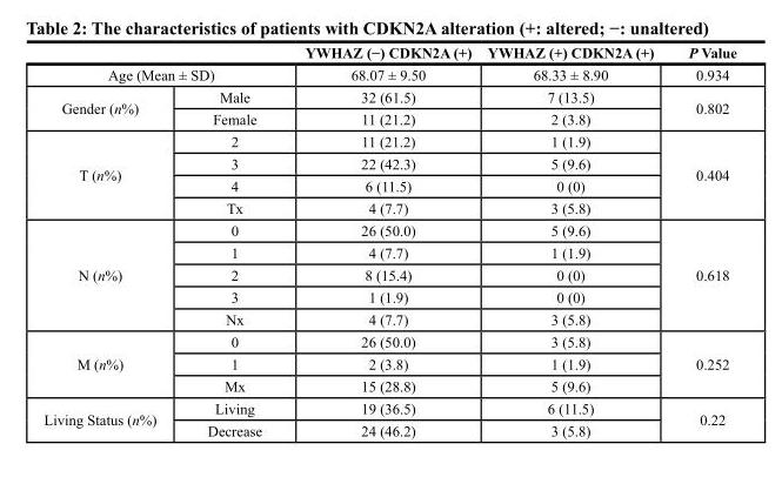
<table><thead><tr><td></td><td></td><td>YWHAZ (−) CDKN2A (+)</td><td>YWHAZ (+) CDKN2A (+)</td><td>P Value</td></tr></thead><tbody><tr><td colspan="2">Age (Mean ± SD)</td><td>68.07 ± 9.50</td><td>68.33 ± 8.90</td><td>0.934</td></tr><tr><td rowspan="2">Gender (n%)</td><td>Male</td><td>32 (61.5)</td><td>7 (13.5)</td><td rowspan="2">0.802</td></tr><tr><td>Female</td><td>11 (21.2)</td><td>2 (3.8)</td></tr><tr><td rowspan="4">T (n%)</td><td>2</td><td>11 (21.2)</td><td>1 (1.9)</td><td rowspan="4">0.404</td></tr><tr><td>3</td><td>22 (42.3)</td><td>5 (9.6)</td></tr><tr><td>4</td><td>6 (11.5)</td><td>0 (0)</td></tr><tr><td>Tx</td><td>4 (7.7)</td><td>3 (5.8)</td></tr><tr><td rowspan="5">N (n%)</td><td>0</td><td>26 (50.0)</td><td>5 (9.6)</td><td rowspan="5">0.618</td></tr><tr><td>1</td><td>4 (7.7)</td><td>1 (1.9)</td></tr><tr><td>2</td><td>8 (15.4)</td><td>0 (0)</td></tr><tr><td>3</td><td>1 (1.9)</td><td>0 (0)</td></tr><tr><td>Nx</td><td>4 (7.7)</td><td>3 (5.8)</td></tr><tr><td rowspan="3">M (n%)</td><td>0</td><td>26 (50.0)</td><td>3 (5.8)</td><td rowspan="3">0.252</td></tr><tr><td>1</td><td>2 (3.8)</td><td>1 (1.9)</td></tr><tr><td>Mx</td><td>15 (28.8)</td><td>5 (9.6)</td></tr><tr><td rowspan="2">Living Status (n%)</td><td>Living</td><td>19 (36.5)</td><td>6 (11.5)</td><td rowspan="2">0.22</td></tr><tr><td>Decrease</td><td>24 (46.2)</td><td>3 (5.8)</td></tr></tbody></table>